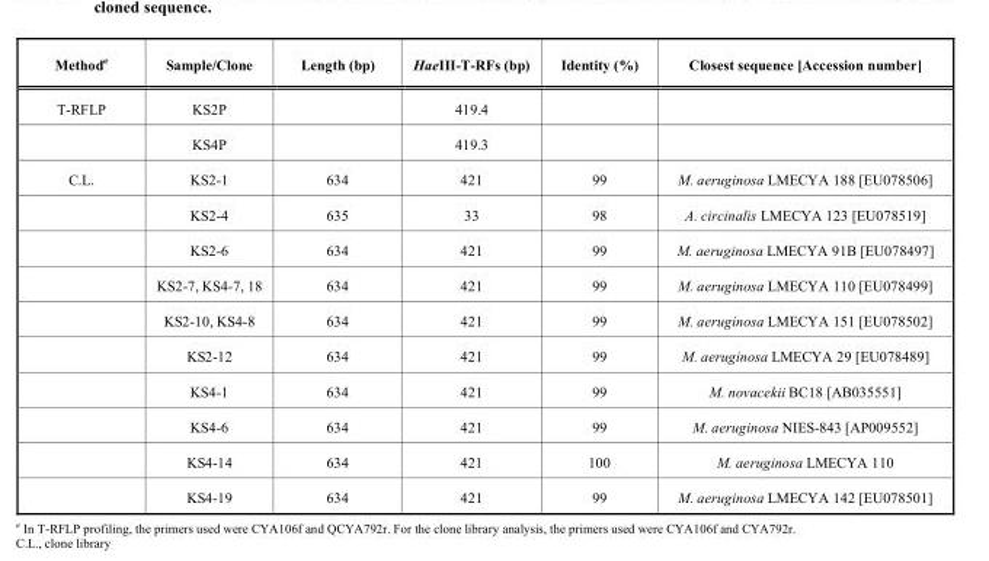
<table><thead><tr><td>Methoda</td><td>Sample/Clone</td><td>Length (bp)</td><td>HaeIII-T-RFs (bp)</td><td>Identity (%)</td><td>Closest sequence [Accession number]</td></tr></thead><tbody><tr><td rowspan="2">T-RFLP</td><td>KS2P</td><td></td><td>419.4</td><td></td><td></td></tr><tr><td>KS4P</td><td></td><td>419.3</td><td></td><td></td></tr><tr><td rowspan="10">C.L.</td><td>KS2-1</td><td>634</td><td>421</td><td>99</td><td>M. aeruginosa LMECYA 188 [EU078506]</td></tr><tr><td>KS2-4</td><td>635</td><td>33</td><td>98</td><td>A. circinalis LMECYA 123 [EU078519]</td></tr><tr><td>KS2-6</td><td>634</td><td>421</td><td>99</td><td>M. aeruginosa LMECYA 91B [EU078497]</td></tr><tr><td>KS2-7, KS4-7, 18</td><td>634</td><td>421</td><td>99</td><td>M. aeruginosa LMECYA 110 [EU078499]</td></tr><tr><td>KS2-10, KS4-8</td><td>634</td><td>421</td><td>99</td><td>M. aeruginosa LMECYA 151 [EU078502]</td></tr><tr><td>KS2-12</td><td>634</td><td>421</td><td>99</td><td>M. aeruginosa LMECYA 29 [EU078489]</td></tr><tr><td>KS4-1</td><td>634</td><td>421</td><td>99</td><td>M. novacekii BC18 [AB035551]</td></tr><tr><td>KS4-6</td><td>634</td><td>421</td><td>99</td><td>M. aeruginosa NIES-843 [AP009552]</td></tr><tr><td>KS4-14</td><td>634</td><td>421</td><td>100</td><td>M. aeruginosa LMECYA 110</td></tr><tr><td>KS4-19</td><td>634</td><td>421</td><td>99</td><td>M. aeruginosa LMECYA 142 [EU078501]</td></tr></tbody></table>